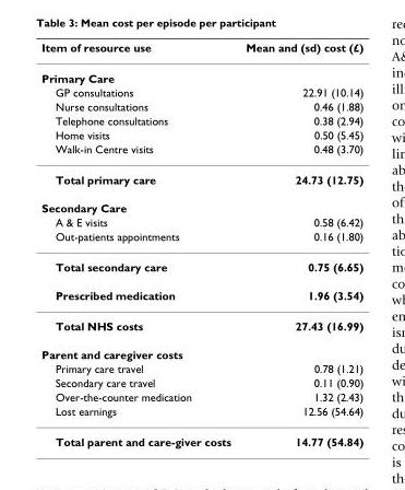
<table><thead><tr><td>Item of resource use</td><td>Mean and (sd) cost (£)</td></tr></thead><tbody><tr><td colspan="2">Primary Care</td></tr><tr><td>GP consultations</td><td>22.91 (10.14)</td></tr><tr><td>Nurse consultations</td><td>0.46 (1.88)</td></tr><tr><td>Telephone consultations</td><td>0.38 (2.94)</td></tr><tr><td>Home visits</td><td>0.50 (5.45)</td></tr><tr><td>Walk-in Centre visits</td><td>0.48 (3.70)</td></tr><tr><td>Total primary care</td><td>24.73 (12.75)</td></tr><tr><td colspan="2">Secondary Care</td></tr><tr><td>A &amp; E visits</td><td>0.58 (6.42)</td></tr><tr><td>Out-patients appointments</td><td>0.16 (1.80)</td></tr><tr><td>Total secondary care</td><td>0.75 (6.65)</td></tr><tr><td>Prescribed medication</td><td>1.96 (3.54)</td></tr><tr><td>Total NHS costs</td><td>27.43 (16.99)</td></tr><tr><td colspan="2">Parent and caregiver costs</td></tr><tr><td>Primary care travel</td><td>0.78 (1.21)</td></tr><tr><td>Secondary care travel</td><td>0.11 (0.90)</td></tr><tr><td>Over-the-counter medication</td><td>1.32 (2.43)</td></tr><tr><td>Lost earnings</td><td>12.56 (54.64)</td></tr><tr><td>Total parent and care-giver costs</td><td>14.77 (54.84)</td></tr></tbody></table>